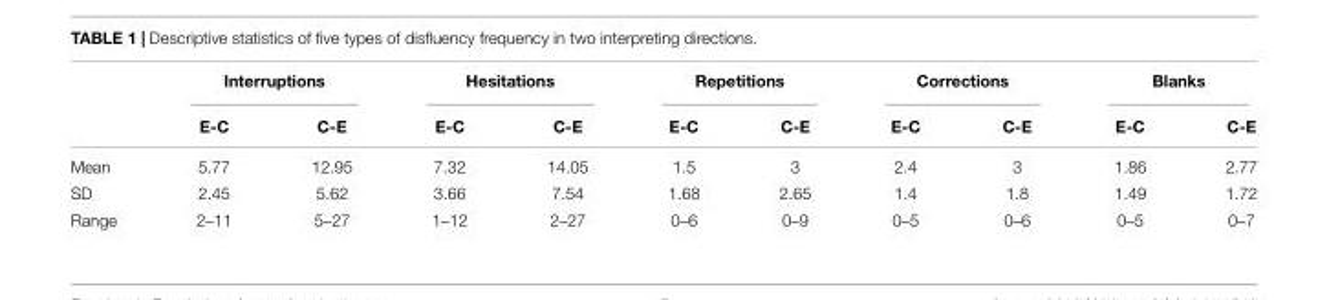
<table><thead><tr><td rowspan="2"></td><td colspan="2">Interruptions</td><td colspan="2">Hesitations</td><td colspan="2">Repetitions</td><td colspan="2">Corrections</td><td colspan="2">Blanks</td></tr><tr><td>E-C</td><td>C-E</td><td>E-C</td><td>C-E</td><td>E-C</td><td>C-E</td><td>E-C</td><td>C-E</td><td>E-C</td><td>C-E</td></tr></thead><tbody><tr><td>Mean</td><td>5.77</td><td>12.95</td><td>7.32</td><td>14.05</td><td>1.5</td><td>3</td><td>2.4</td><td>3</td><td>1.86</td><td>2.77</td></tr><tr><td>SD</td><td>2.45</td><td>5.62</td><td>3.66</td><td>7.54</td><td>1.68</td><td>2.65</td><td>1.4</td><td>1.8</td><td>1.49</td><td>1.72</td></tr><tr><td>Range</td><td>2–11</td><td>5–27</td><td>1–12</td><td>2–27</td><td>0–6</td><td>0–9</td><td>0–5</td><td>0–6</td><td>0–5</td><td>0–7</td></tr></tbody></table>